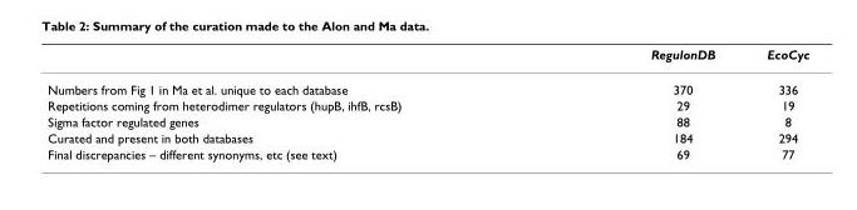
<table><thead><tr><td></td><td>RegulonDB</td><td>EcoCyc</td></tr></thead><tbody><tr><td>Numbers from Fig 1 in Ma et al. unique to each database</td><td>370</td><td>336</td></tr><tr><td>Repetitions coming from heterodimer regulators (hupB, ihfB, rcsB)</td><td>29</td><td>19</td></tr><tr><td>Sigma factor regulated genes</td><td>88</td><td>8</td></tr><tr><td>Curated and present in both databases</td><td>184</td><td>294</td></tr><tr><td>Final discrepancies – different synonyms, etc (see text)</td><td>69</td><td>77</td></tr></tbody></table>